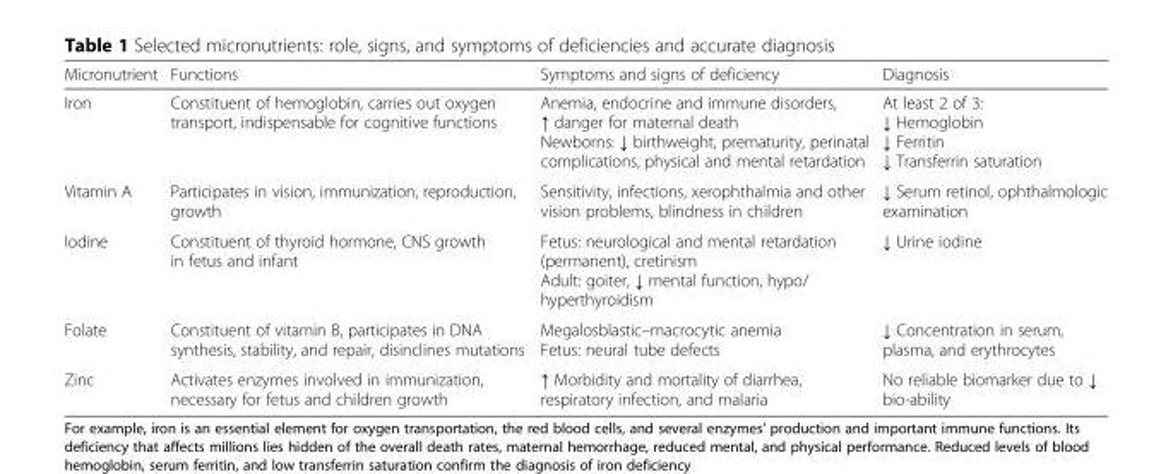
<table><thead><tr><td>Micronutrient</td><td>Functions</td><td>Symptoms and signs of deficiency</td><td>Diagnosis</td></tr></thead><tbody><tr><td>Iron</td><td>Constituent of hemoglobin, carries out oxygen transport, indispensable for cognitive functions</td><td>Anemia, endocrine and immune disorders, ↑ danger for maternal death Newborns: ↓ birthweight, prematurity, perinatal complications, physical and mental retardation</td><td>At least 2 of 3: ↓ Hemoglobin ↓ Ferritin ↓ Transferrin saturation</td></tr><tr><td>Vitamin A</td><td>Participates in vision, immunization, reproduction, growth</td><td>Sensitivity, infections, xerophthalmia and other vision problems, blindness in children</td><td>↓ Serum retinol, ophthalmologic examination</td></tr><tr><td>Iodine</td><td>Constituent of thyroid hormone, CNS growth in fetus and infant</td><td>Fetus: neurological and mental retardation (permanent), cretinism Adult: goiter, ↓ mental function, hypo/ hyperthyroidism</td><td>↓ Urine iodine</td></tr><tr><td>Folate</td><td>Constituent of vitamin B, participates in DNA synthesis, stability, and repair, disinclines mutations</td><td>Megalosblastic–macrocytic anemia Fetus: neural tube defects</td><td>↓ Concentration in serum, plasma, and erythrocytes</td></tr><tr><td>Zinc</td><td>Activates enzymes involved in immunization, necessary for fetus and children growth</td><td>↑ Morbidity and mortality of diarrhea, respiratory infection, and malaria</td><td>No reliable biomarker due to ↓ bio-ability</td></tr></tbody></table>